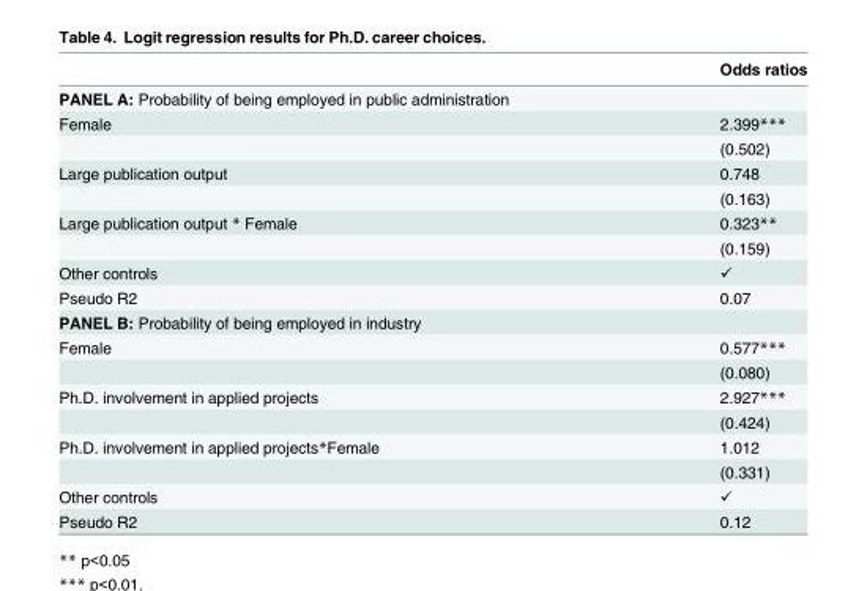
<table><thead><tr><td></td><td>Odds ratios</td></tr></thead><tbody><tr><td colspan="2">PANEL A: Probability of being employed in public administration</td></tr><tr><td rowspan="2">Female</td><td>2.399***</td></tr><tr><td>(0.502)</td></tr><tr><td rowspan="2">Large publication output</td><td>0.748</td></tr><tr><td>(0.163)</td></tr><tr><td rowspan="2">Large publication output * Female</td><td>0.323**</td></tr><tr><td>(0.159)</td></tr><tr><td>Other controls</td><td>✓</td></tr><tr><td>Pseudo R2</td><td>0.07</td></tr><tr><td colspan="2">PANEL B: Probability of being employed in industry</td></tr><tr><td rowspan="2">Female</td><td>0.577***</td></tr><tr><td>(0.080)</td></tr><tr><td rowspan="2">Ph.D. involvement in applied projects</td><td>2.927***</td></tr><tr><td>(0.424)</td></tr><tr><td rowspan="2">Ph.D. involvement in applied projects*Female</td><td>1.012</td></tr><tr><td>(0.331)</td></tr><tr><td>Other controls</td><td>✓</td></tr><tr><td>Pseudo R2</td><td>0.12</td></tr></tbody></table>